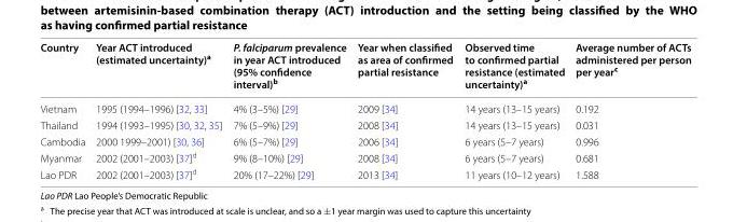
<table><thead><tr><td>Country</td><td>Year ACT introduced (estimated uncertainty)<sup>a</sup></td><td>P. falciparum prevalence in year ACT introduced (95% confidence interval)<sup>b</sup></td><td>Year when classified as area of confirmed partial resistance</td><td>Observed time to confirmed partial resistance (estimated uncertainty)<sup>a</sup></td><td>Average number of ACTs administered per person per year<sup>c</sup></td></tr></thead><tbody><tr><td>Vietnam</td><td>1995 (1994–1996) [32, 33]</td><td>4% (3–5%) [29]</td><td>2009 [34]</td><td>14 years (13–15 years)</td><td>0.192</td></tr><tr><td>Thailand</td><td>1994 (1993–1995) [30, 32, 35]</td><td>7% (5–9%) [29]</td><td>2008 [34]</td><td>14 years (13–15 years)</td><td>0.031</td></tr><tr><td>Cambodia</td><td>2000 1999–2001) [30, 36]</td><td>6% (5–7%) [29]</td><td>2006 [34]</td><td>6 years (5–7 years)</td><td>0.996</td></tr><tr><td>Myanmar</td><td>2002 (2001–2003) [37]<sup>d</sup></td><td>9% (8–10%) [29]</td><td>2008 [34]</td><td>6 years (5–7 years)</td><td>0.681</td></tr><tr><td>Lao PDR</td><td>2002 (2001–2003) [37]<sup>d</sup></td><td>20% (17–22%) [29]</td><td>2013 [34]</td><td>11 years (10–12 years)</td><td>1.588</td></tr></tbody></table>